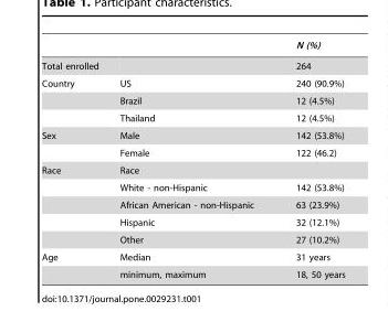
<table><thead><tr><td></td><td></td><td>N (%)</td></tr></thead><tbody><tr><td>Total enrolled</td><td></td><td>264</td></tr><tr><td rowspan="3">Country</td><td>US</td><td>240 (90.9%)</td></tr><tr><td>Brazil</td><td>12 (4.5%)</td></tr><tr><td>Thailand</td><td>12 (4.5%)</td></tr><tr><td rowspan="2">Sex</td><td>Male</td><td>142 (53.8%)</td></tr><tr><td>Female</td><td>122 (46.2)</td></tr><tr><td rowspan="5">Race</td><td>Race</td><td></td></tr><tr><td>White - non-Hispanic</td><td>142 (53.8%)</td></tr><tr><td>African American - non-Hispanic</td><td>63 (23.9%)</td></tr><tr><td>Hispanic</td><td>32 (12.1%)</td></tr><tr><td>Other</td><td>27 (10.2%)</td></tr><tr><td rowspan="2">Age</td><td>Median</td><td>31 years</td></tr><tr><td>minimum, maximum</td><td>18, 50 years</td></tr></tbody></table>